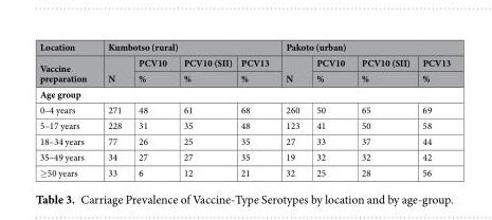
<table><thead><tr><td rowspan="3">Location Vaccine preparation</td><td colspan="4">Kumbotso (rural)</td><td colspan="4">Pakoto (urban)</td></tr><tr><td rowspan="2">N</td><td rowspan="2">PCV10 %</td><td rowspan="2">PCV10 (SII) %</td><td rowspan="2">PCV13 %</td><td rowspan="2">N</td><td rowspan="2">PCV10 %</td><td rowspan="2">PCV10 (SII) %</td><td rowspan="2">PCV13 %</td></tr><tr></tr></thead><tbody><tr><td colspan="9">Age group</td></tr><tr><td>0–4 years</td><td>271</td><td>48</td><td>61</td><td>68</td><td>260</td><td>50</td><td>65</td><td>69</td></tr><tr><td>5–17 years</td><td>228</td><td>31</td><td>35</td><td>48</td><td>123</td><td>41</td><td>50</td><td>58</td></tr><tr><td>18–34 years</td><td>77</td><td>26</td><td>25</td><td>35</td><td>27</td><td>33</td><td>37</td><td>44</td></tr><tr><td>35–49 years</td><td>34</td><td>27</td><td>27</td><td>35</td><td>19</td><td>32</td><td>32</td><td>42</td></tr><tr><td>≥50 years</td><td>33</td><td>6</td><td>12</td><td>21</td><td>32</td><td>25</td><td>28</td><td>56</td></tr></tbody></table>